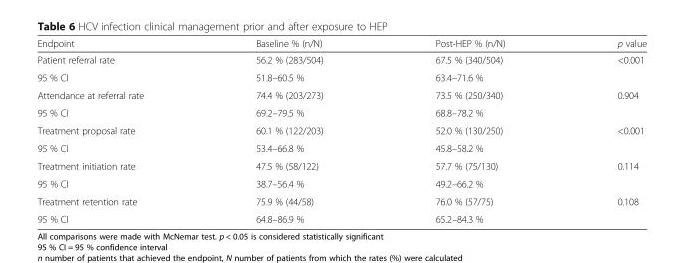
<table><thead><tr><td>Endpoint</td><td>Baseline % (n/N)</td><td>Post-HEP % (n/N)</td><td>p value</td></tr></thead><tbody><tr><td>Patient referral rate</td><td>56.2 % (283/504)</td><td>67.5 % (340/504)</td><td>&lt;0.001</td></tr><tr><td>95 % CI</td><td>51.8–60.5 %</td><td>63.4–71.6 %</td><td></td></tr><tr><td>Attendance at referral rate</td><td>74.4 % (203/273)</td><td>73.5 % (250/340)</td><td>0.904</td></tr><tr><td>95 % CI</td><td>69.2–79.5 %</td><td>68.8–78.2 %</td><td></td></tr><tr><td>Treatment proposal rate</td><td>60.1 % (122/203)</td><td>52.0 % (130/250)</td><td rowspan="2">&lt;0.001</td></tr><tr><td>95 % CI</td><td>53.4–66.8 %</td><td>45.8–58.2 %</td></tr><tr><td>Treatment initiation rate</td><td>47.5 % (58/122)</td><td>57.7 % (75/130)</td><td rowspan="2">0.114</td></tr><tr><td>95 % CI</td><td>38.7–56.4 %</td><td>49.2–66.2 %</td></tr><tr><td>Treatment retention rate</td><td>75.9 % (44/58)</td><td>76.0 % (57/75)</td><td rowspan="2">0.108</td></tr><tr><td>95 % CI</td><td>64.8–86.9 %</td><td>65.2–84.3 %</td></tr></tbody></table>